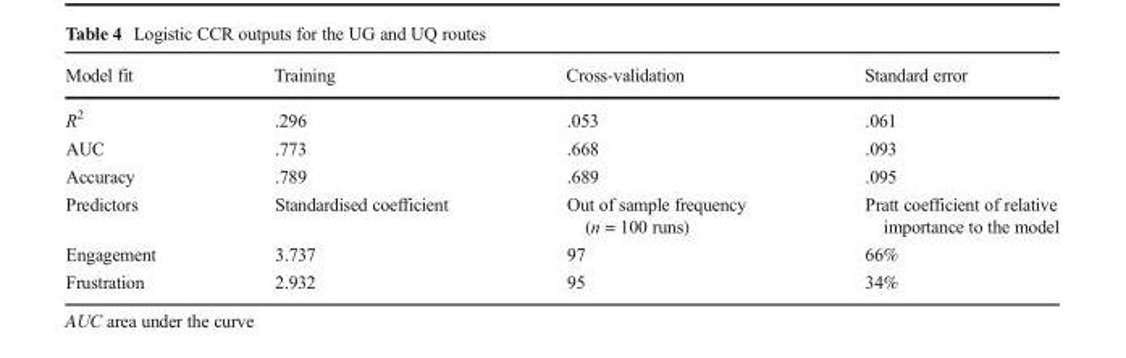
<table><thead><tr><td>Model fit</td><td>Training</td><td>Cross-validation</td><td>Standard error</td></tr></thead><tbody><tr><td>R<sup>2</sup></td><td>.296</td><td>.053</td><td>.061</td></tr><tr><td>AUC</td><td>.773</td><td>.668</td><td>.093</td></tr><tr><td>Accuracy</td><td>.789</td><td>.689</td><td>.095</td></tr><tr><td>Predictors</td><td>Standardised coefficient</td><td>Out of sample frequency (n = 100 runs)</td><td>Pratt coefficient of relative importance to the model</td></tr><tr><td>Engagement</td><td>3.737</td><td>97</td><td>66%</td></tr><tr><td>Frustration</td><td>2.932</td><td>95</td><td>34%</td></tr></tbody></table>